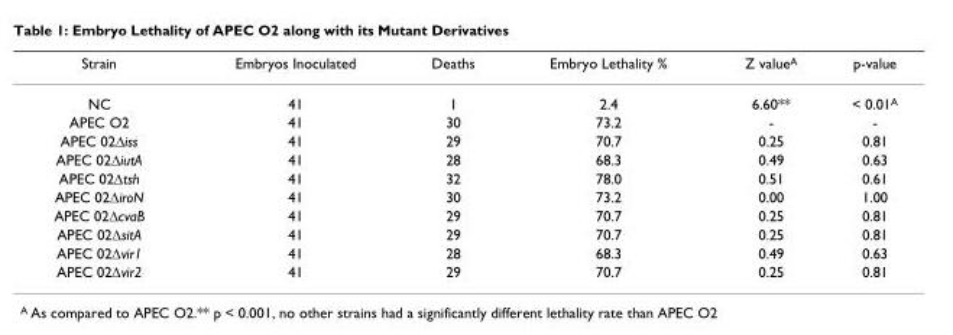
<table><thead><tr><td>Strain</td><td>Embryos Inoculated</td><td>Deaths</td><td>Embryo Lethality %</td><td>Z value<sup>A</sup></td><td>p-value</td></tr></thead><tbody><tr><td>NC</td><td>41</td><td>1</td><td>2.4</td><td>6.60**</td><td>&lt; 0.01<sup>A</sup></td></tr><tr><td>APEC O2</td><td>41</td><td>30</td><td>73.2</td><td>-</td><td>-</td></tr><tr><td>APEC 02∆iss</td><td>41</td><td>29</td><td>70.7</td><td>0.25</td><td>0.81</td></tr><tr><td>APEC 02∆iutA</td><td>41</td><td>28</td><td>68.3</td><td>0.49</td><td>0.63</td></tr><tr><td>APEC 02∆tsh</td><td>41</td><td>32</td><td>78.0</td><td>0.51</td><td>0.61</td></tr><tr><td>APEC 02∆iroN</td><td>41</td><td>30</td><td>73.2</td><td>0.00</td><td>1.00</td></tr><tr><td>APEC 02∆cvaB</td><td>41</td><td>29</td><td>70.7</td><td>0.25</td><td>0.81</td></tr><tr><td>APEC 02∆sitA</td><td>41</td><td>29</td><td>70.7</td><td>0.25</td><td>0.81</td></tr><tr><td>APEC 02∆vir1</td><td>41</td><td>28</td><td>68.3</td><td>0.49</td><td>0.63</td></tr><tr><td>APEC 02∆vir2</td><td>41</td><td>29</td><td>70.7</td><td>0.25</td><td>0.81</td></tr></tbody></table>